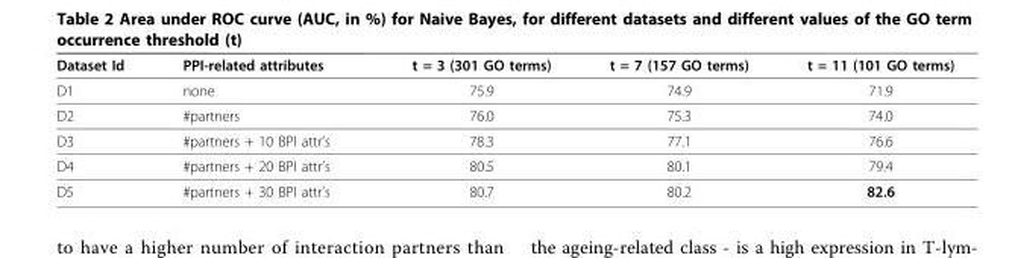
<table><thead><tr><td>Dataset Id</td><td>PPI-related attributes</td><td>t = 3 (301 GO terms)</td><td>t = 7 (157 GO terms)</td><td>t = 11 (101 GO terms)</td></tr></thead><tbody><tr><td>D1</td><td>none</td><td>75.9</td><td>74.9</td><td>71.9</td></tr><tr><td>D2</td><td>#partners</td><td>76.0</td><td>75.3</td><td>74.0</td></tr><tr><td>D3</td><td>#partners + 10 BPI attr’s</td><td>78.3</td><td>77.1</td><td>76.6</td></tr><tr><td>D4</td><td>#partners + 20 BPI attr’s</td><td>80.5</td><td>80.1</td><td>79.4</td></tr><tr><td>D5</td><td>#partners + 30 BPI attr’s</td><td>80.7</td><td>80.2</td><td>82.6</td></tr></tbody></table>